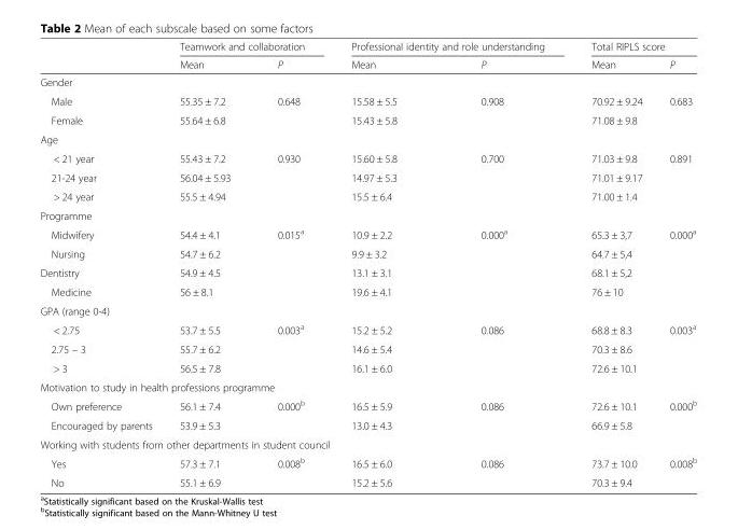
<table><thead><tr><td rowspan="2"></td><td colspan="2">Teamwork and collaboration</td><td colspan="2">Professional identity and role understanding</td><td colspan="2">Total RIPLS score</td></tr><tr><td>Mean</td><td>P</td><td>Mean</td><td>P</td><td>Mean</td><td>P</td></tr></thead><tbody><tr><td colspan="7">Gender</td></tr><tr><td>Male</td><td>55.35 ± 7.2</td><td>0.648</td><td>15.58 ± 5.5</td><td>0.908</td><td>70.92 ± 9.24</td><td>0.683</td></tr><tr><td>Female</td><td>55.64 ± 6.8</td><td></td><td>15.43 ± 5.8</td><td></td><td>71.08 ± 9.8</td><td></td></tr><tr><td colspan="7">Age</td></tr><tr><td>&lt; 21 year</td><td>55.43 ± 7.2</td><td>0.930</td><td>15.60 ± 5.8</td><td>0.700</td><td>71.03 ± 9.8</td><td>0.891</td></tr><tr><td>21-24 year</td><td>56.04 ± 5.93</td><td></td><td>14.97 ± 5.3</td><td></td><td>71.01 ± 9.17</td><td></td></tr><tr><td>&gt; 24 year</td><td>55.5 ± 4.94</td><td></td><td>15.5 ± 6.4</td><td></td><td>71.00 ± 1.4</td><td></td></tr><tr><td colspan="7">Programme</td></tr><tr><td>Midwifery</td><td>54.4 ± 4.1</td><td rowspan="4">0.015<sup>a</sup></td><td>10.9 ± 2.2</td><td rowspan="4">0.000<sup>a</sup></td><td>65.3 ± 3,7</td><td rowspan="4">0.000<sup>a</sup></td></tr><tr><td>Nursing</td><td>54.7 ± 6.2</td><td>9.9 ± 3.2</td><td>64.7 ± 5,4</td></tr><tr><td>Dentistry</td><td>54.9 ± 4.5</td><td>13.1 ± 3.1</td><td>68.1 ± 5,2</td></tr><tr><td>Medicine</td><td>56 ± 8.1</td><td>19.6 ± 4.1</td><td>76 ± 10</td></tr><tr><td colspan="7">GPA (range 0-4)</td></tr><tr><td>&lt; 2.75</td><td>53.7 ± 5.5</td><td rowspan="3">0.003<sup>a</sup></td><td>15.2 ± 5.2</td><td rowspan="3">0.086</td><td>68.8 ± 8.3</td><td rowspan="3">0.003<sup>a</sup></td></tr><tr><td>2.75 – 3</td><td>55.7 ± 6.2</td><td>14.6 ± 5.4</td><td>70.3 ± 8.6</td></tr><tr><td>&gt; 3</td><td>56.5 ± 7.8</td><td>16.1 ± 6.0</td><td>72.6 ± 10.1</td></tr><tr><td colspan="7">Motivation to study in health professions programme</td></tr><tr><td>Own preference</td><td>56.1 ± 7.4</td><td rowspan="2">0.000<sup>b</sup></td><td>16.5 ± 5.9</td><td rowspan="2">0.086</td><td>72.6 ± 10.1</td><td rowspan="2">0.000<sup>b</sup></td></tr><tr><td>Encouraged by parents</td><td>53.9 ± 5.3</td><td>13.0 ± 4.3</td><td>66.9 ± 5.8</td></tr><tr><td colspan="7">Working with students from other departments in student council</td></tr><tr><td>Yes</td><td>57.3 ± 7.1</td><td rowspan="2">0.008<sup>b</sup></td><td>16.5 ± 6.0</td><td rowspan="2">0.086</td><td>73.7 ± 10.0</td><td rowspan="2">0.008<sup>b</sup></td></tr><tr><td>No</td><td>55.1 ± 6.9</td><td>15.2 ± 5.6</td><td>70.3 ± 9.4</td></tr></tbody></table>